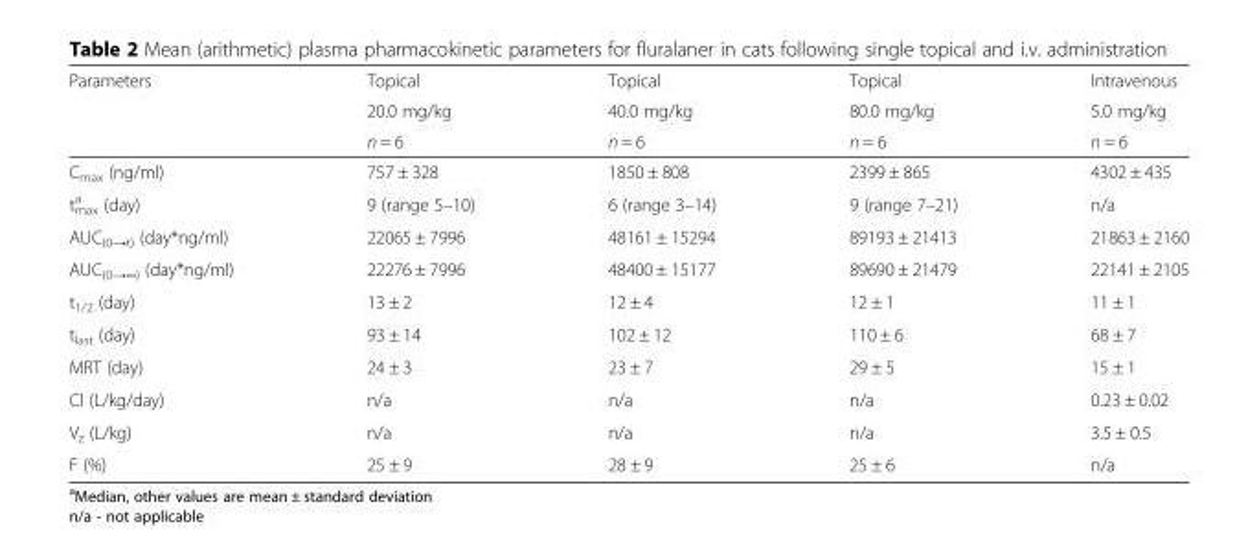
<table><thead><tr><td rowspan="3">Parameters</td><td rowspan="3">Topical 20.0 mg/kg n = 6</td><td rowspan="3">Topical 40.0 mg/kg n = 6</td><td rowspan="3">Topical 80.0 mg/kg n = 6</td><td rowspan="3">Intravenous 5.0 mg/kg n = 6</td></tr><tr></tr><tr></tr></thead><tbody><tr><td>C<sub>max</sub> (ng/ml)</td><td>757 ± 328</td><td>1850 ± 808</td><td>2399 ± 865</td><td>4302 ± 435</td></tr><tr><td>t<sub>max</sub> <sup>a</sup> (day)</td><td>9 (range 5–10)</td><td>6 (range 3–14)</td><td>9 (range 7–21)</td><td>n/a</td></tr><tr><td>AUC<sub>(0→t)</sub> (day*ng/ml)</td><td>22065 ± 7996</td><td>48161 ± 15294</td><td>89193 ± 21413</td><td>21863 ± 2160</td></tr><tr><td>AUC<sub>(0→∞)</sub> (day*ng/ml)</td><td>22276 ± 7996</td><td>48400 ± 15177</td><td>89690 ± 21479</td><td>22141 ± 2105</td></tr><tr><td>t<sub>1/2</sub> (day)</td><td>13 ± 2</td><td>12 ± 4</td><td>12 ± 1</td><td>11 ± 1</td></tr><tr><td>t<sub>last</sub> (day)</td><td>93 ± 14</td><td>102 ± 12</td><td>110 ± 6</td><td>68 ± 7</td></tr><tr><td>MRT (day)</td><td>24 ± 3</td><td>23 ± 7</td><td>29 ± 5</td><td>15 ± 1</td></tr><tr><td>Cl (L/kg/day)</td><td>n/a</td><td>n/a</td><td>n/a</td><td>0.23 ± 0.02</td></tr><tr><td>V<sub>z</sub> (L/kg)</td><td>n/a</td><td>n/a</td><td>n/a</td><td>3.5 ± 0.5</td></tr><tr><td>F (%)</td><td>25 ± 9</td><td>28 ± 9</td><td>25 ± 6</td><td>n/a</td></tr></tbody></table>